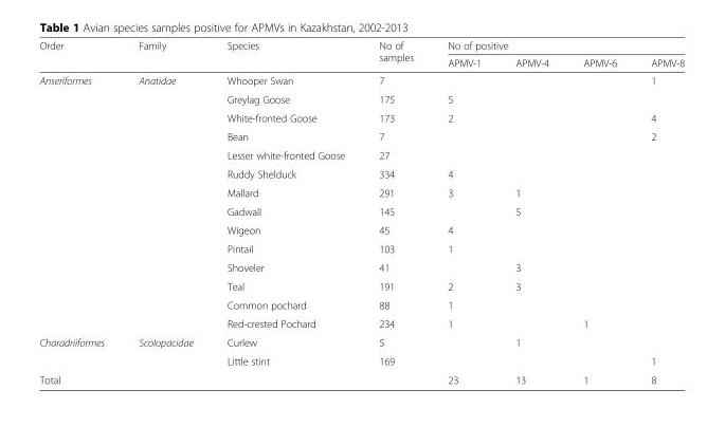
<table><thead><tr><td rowspan="2">Order</td><td rowspan="2">Family</td><td rowspan="2">Species</td><td rowspan="2">No of samples</td><td colspan="4">No of positive</td></tr><tr><td>APMV-1</td><td>APMV-4</td><td>APMV-6</td><td>APMV-8</td></tr></thead><tbody><tr><td rowspan="14">Anseriformes</td><td>Anatidae</td><td>Whooper Swan</td><td>7</td><td></td><td></td><td></td><td>1</td></tr><tr><td></td><td>Greylag Goose</td><td>175</td><td>5</td><td></td><td></td><td></td></tr><tr><td></td><td>White-fronted Goose</td><td>173</td><td>2</td><td></td><td></td><td>4</td></tr><tr><td></td><td>Bean</td><td>7</td><td></td><td></td><td></td><td>2</td></tr><tr><td></td><td>Lesser white-fronted Goose</td><td>27</td><td></td><td></td><td></td><td></td></tr><tr><td></td><td>Ruddy Shelduck</td><td>334</td><td>4</td><td></td><td></td><td></td></tr><tr><td></td><td>Mallard</td><td>291</td><td>3</td><td>1</td><td></td><td></td></tr><tr><td></td><td>Gadwall</td><td>145</td><td></td><td>5</td><td></td><td></td></tr><tr><td></td><td>Wigeon</td><td>45</td><td>4</td><td></td><td></td><td></td></tr><tr><td></td><td>Pintail</td><td>103</td><td>1</td><td></td><td></td><td></td></tr><tr><td></td><td>Shoveler</td><td>41</td><td></td><td>3</td><td></td><td></td></tr><tr><td></td><td>Teal</td><td>191</td><td>2</td><td>3</td><td></td><td></td></tr><tr><td></td><td>Common pochard</td><td>88</td><td>1</td><td></td><td></td><td></td></tr><tr><td></td><td>Red-crested Pochard</td><td>234</td><td>1</td><td></td><td>1</td><td></td></tr><tr><td rowspan="2">Charadriiformes</td><td>Scolopacidae</td><td>Curlew</td><td>5</td><td></td><td>1</td><td></td><td></td></tr><tr><td></td><td>Little stint</td><td>169</td><td></td><td></td><td></td><td>1</td></tr><tr><td>Total</td><td></td><td></td><td></td><td>23</td><td>13</td><td>1</td><td>8</td></tr></tbody></table>